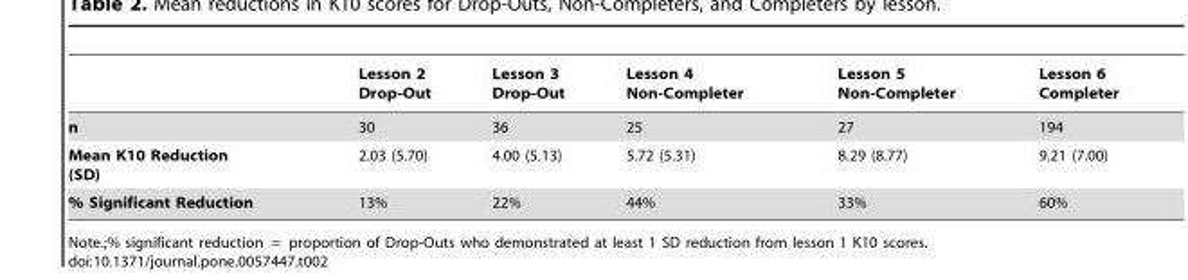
<table><thead><tr><td></td><td>Lesson 2 Drop-Out</td><td>Lesson 3 Drop-Out</td><td>Lesson 4 Non-Completer</td><td>Lesson 5 Non-Completer</td><td>Lesson 6 Completer</td></tr></thead><tbody><tr><td>n</td><td>30</td><td>36</td><td>25</td><td>27</td><td>194</td></tr><tr><td>Mean K10 Reduction (SD)</td><td>2.03 (5.70)</td><td>4.00 (5.13)</td><td>5.72 (5.31)</td><td>8.29 (8.77)</td><td>9.21 (7.00)</td></tr><tr><td>% Significant Reduction</td><td>13%</td><td>22%</td><td>44%</td><td>33%</td><td>60%</td></tr></tbody></table>